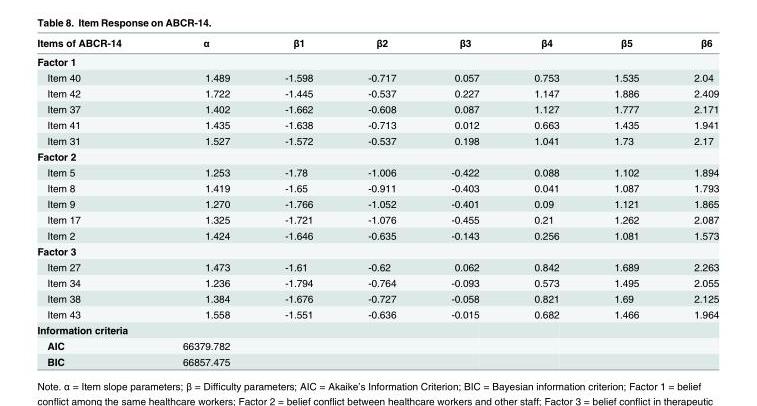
<table><thead><tr><td>Items of ABCR-14</td><td>α</td><td>β1</td><td>β2</td><td>β3</td><td>β4</td><td>β5</td><td>β6</td></tr></thead><tbody><tr><td colspan="8">Factor 1</td></tr><tr><td>Item 40</td><td>1.489</td><td>-1.598</td><td>-0.717</td><td>0.057</td><td>0.753</td><td>1.535</td><td>2.04</td></tr><tr><td>Item 42</td><td>1.722</td><td>-1.445</td><td>-0.537</td><td>0.227</td><td>1.147</td><td>1.886</td><td>2.409</td></tr><tr><td>Item 37</td><td>1.402</td><td>-1.662</td><td>-0.608</td><td>0.087</td><td>1.127</td><td>1.777</td><td>2.171</td></tr><tr><td>Item 41</td><td>1.435</td><td>-1.638</td><td>-0.713</td><td>0.012</td><td>0.663</td><td>1.435</td><td>1.941</td></tr><tr><td>Item 31</td><td>1.527</td><td>-1.572</td><td>-0.537</td><td>0.198</td><td>1.041</td><td>1.73</td><td>2.17</td></tr><tr><td colspan="8">Factor 2</td></tr><tr><td>Item 5</td><td>1.253</td><td>-1.78</td><td>-1.006</td><td>-0.422</td><td>0.088</td><td>1.102</td><td>1.894</td></tr><tr><td>Item 8</td><td>1.419</td><td>-1.65</td><td>-0.911</td><td>-0.403</td><td>0.041</td><td>1.087</td><td>1.793</td></tr><tr><td>Item 9</td><td>1.270</td><td>-1.766</td><td>-1.052</td><td>-0.401</td><td>0.09</td><td>1.121</td><td>1.865</td></tr><tr><td>Item 17</td><td>1.325</td><td>-1.721</td><td>-1.076</td><td>-0.455</td><td>0.21</td><td>1.262</td><td>2.087</td></tr><tr><td>Item 2</td><td>1.424</td><td>-1.646</td><td>-0.635</td><td>-0.143</td><td>0.256</td><td>1.081</td><td>1.573</td></tr><tr><td colspan="8">Factor 3</td></tr><tr><td>Item 27</td><td>1.473</td><td>-1.61</td><td>-0.62</td><td>0.062</td><td>0.842</td><td>1.689</td><td>2.263</td></tr><tr><td>Item 34</td><td>1.236</td><td>-1.794</td><td>-0.764</td><td>-0.093</td><td>0.573</td><td>1.495</td><td>2.055</td></tr><tr><td>Item 38</td><td>1.384</td><td>-1.676</td><td>-0.727</td><td>-0.058</td><td>0.821</td><td>1.69</td><td>2.125</td></tr><tr><td>Item 43</td><td>1.558</td><td>-1.551</td><td>-0.636</td><td>-0.015</td><td>0.682</td><td>1.466</td><td>1.964</td></tr><tr><td colspan="8">Information criteria</td></tr><tr><td>AIC</td><td>66379.782</td><td></td><td></td><td></td><td></td><td></td><td></td></tr><tr><td>BIC</td><td>66857.475</td><td></td><td></td><td></td><td></td><td></td><td></td></tr></tbody></table>